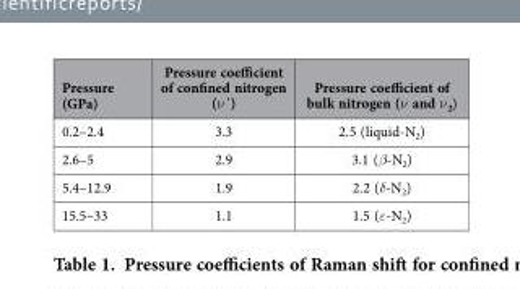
<table><thead><tr><td>Pressure (GPa)</td><td>Pressure coefficient of confined nitrogen (ν ΄)</td><td>Pressure coefficient of bulk nitrogen (ν and ν <sub>2</sub>)</td></tr></thead><tbody><tr><td>0.2–2.4</td><td>3.3</td><td>2.5 (liquid-N<sub>2</sub>)</td></tr><tr><td>2.6–5</td><td>2.9</td><td>3.1 (β-N<sub>2</sub>)</td></tr><tr><td>5.4–12.9</td><td>1.9</td><td>2.2 (δ-N<sub>2</sub>)</td></tr><tr><td>15.5–33</td><td>1.1</td><td>1.5 (ε-N<sub>2</sub>)</td></tr></tbody></table>